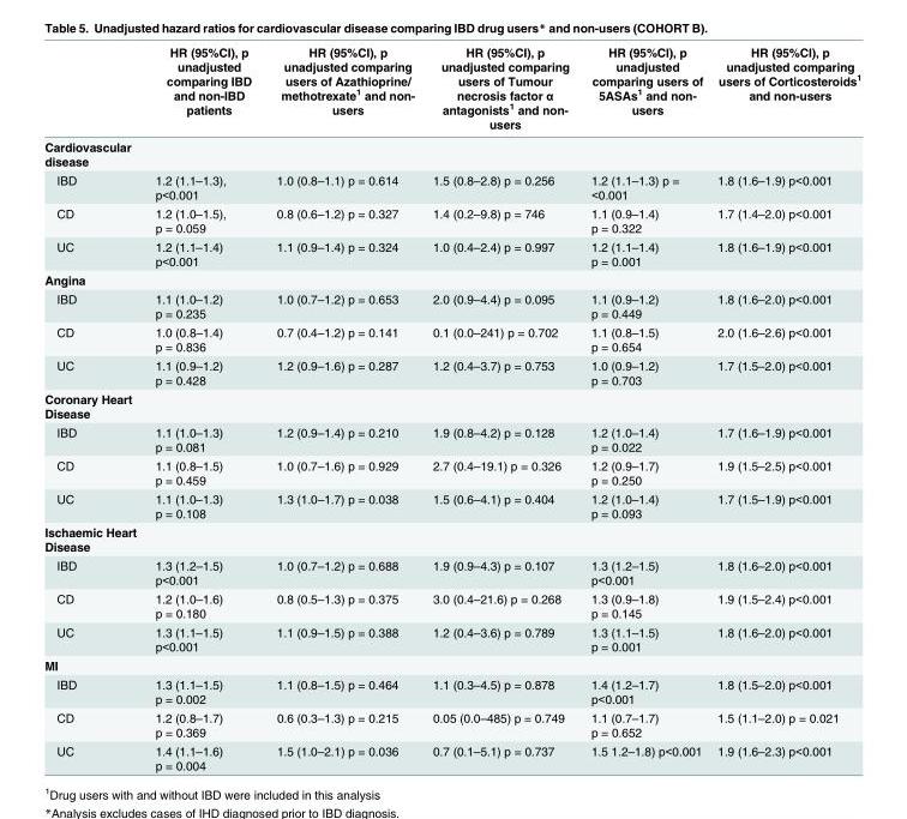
<table><thead><tr><td></td><td>HR (95%CI), p unadjusted comparing IBD and non-IBD patients</td><td>HR (95%CI), p unadjusted comparing users of Azathioprine/ methotrexate<sup>1</sup> and non- users</td><td>HR (95%CI), p unadjusted comparing users of Tumour necrosis factor α antagonists<sup>1</sup> and non- users</td><td>HR (95%CI), p unadjusted comparing users of 5ASAs<sup>1</sup> and non- users</td><td>HR (95%CI), p unadjusted comparing users of Corticosteroids<sup>1</sup> and non-users</td></tr></thead><tbody><tr><td colspan="6">Cardiovascular disease</td></tr><tr><td>IBD</td><td>1.2 (1.1–1.3), p&lt;0.001</td><td>1.0 (0.8–1.1) p = 0.614</td><td>1.5 (0.8–2.8) p = 0.256</td><td>1.2 (1.1–1.3) p = &lt;0.001</td><td>1.8 (1.6–1.9) p&lt;0.001</td></tr><tr><td>CD</td><td>1.2 (1.0–1.5), p = 0.059</td><td>0.8 (0.6–1.2) p = 0.327</td><td>1.4 (0.2–9.8) p = 746</td><td>1.1 (0.9–1.4) p = 0.322</td><td>1.7 (1.4–2.0) p&lt;0.001</td></tr><tr><td>UC</td><td>1.2 (1.1–1.4) p&lt;0.001</td><td>1.1 (0.9–1.4) p = 0.324</td><td>1.0 (0.4–2.4) p = 0.997</td><td>1.2 (1.1–1.4) p = 0.001</td><td>1.8 (1.6–1.9) p&lt;0.001</td></tr><tr><td colspan="6">Angina</td></tr><tr><td>IBD</td><td>1.1 (1.0–1.2) p = 0.235</td><td>1.0 (0.7–1.2) p = 0.653</td><td>2.0 (0.9–4.4) p = 0.095</td><td>1.1 (0.9–1.2) p = 0.449</td><td>1.8 (1.6–2.0) p&lt;0.001</td></tr><tr><td>CD</td><td>1.0 (0.8–1.4) p = 0.836</td><td>0.7 (0.4–1.2) p = 0.141</td><td>0.1 (0.0–241) p = 0.702</td><td>1.1 (0.8–1.5) p = 0.654</td><td>2.0 (1.6–2.6) p&lt;0.001</td></tr><tr><td>UC</td><td>1.1 (0.9–1.2) p = 0.428</td><td>1.2 (0.9–1.6) p = 0.287</td><td>1.2 (0.4–3.7) p = 0.753</td><td>1.0 (0.9–1.2) p = 0.703</td><td>1.7 (1.5–2.0) p&lt;0.001</td></tr><tr><td colspan="6">Coronary Heart Disease</td></tr><tr><td>IBD</td><td>1.1 (1.0–1.3) p = 0.081</td><td>1.2 (0.9–1.4) p = 0.210</td><td>1.9 (0.8–4.2) p = 0.128</td><td>1.2 (1.0–1.4) p = 0.022</td><td>1.7 (1.6–1.9) p&lt;0.001</td></tr><tr><td>CD</td><td>1.1 (0.8–1.5) p = 0.459</td><td>1.0 (0.7–1.6) p = 0.929</td><td>2.7 (0.4–19.1) p = 0.326</td><td>1.2 (0.9–1.7) p = 0.250</td><td>1.9 (1.5–2.5) p&lt;0.001</td></tr><tr><td>UC</td><td>1.1 (1.0–1.3) p = 0.108</td><td>1.3 (1.0–1.7) p = 0.038</td><td>1.5 (0.6–4.1) p = 0.404</td><td>1.2 (1.0–1.4) p = 0.093</td><td>1.7 (1.5–1.9) p&lt;0.001</td></tr><tr><td colspan="6">Ischaemic Heart Disease</td></tr><tr><td>IBD</td><td>1.3 (1.2–1.5) p&lt;0.001</td><td>1.0 (0.7–1.2) p = 0.688</td><td>1.9 (0.9–4.3) p = 0.107</td><td>1.3 (1.2–1.5) p&lt;0.001</td><td>1.8 (1.6–2.0) p&lt;0.001</td></tr><tr><td>CD</td><td>1.2 (1.0–1.6) p = 0.180</td><td>0.8 (0.5–1.3) p = 0.375</td><td>3.0 (0.4–21.6) p = 0.268</td><td>1.3 (0.9–1.8) p = 0.145</td><td>1.9 (1.5–2.4) p&lt;0.001</td></tr><tr><td>UC</td><td>1.3 (1.1–1.5) p&lt;0.001</td><td>1.1 (0.9–1.5) p = 0.388</td><td>1.2 (0.4–3.6) p = 0.789</td><td>1.3 (1.1–1.5) p = 0.001</td><td>1.8 (1.6–2.0) p&lt;0.001</td></tr><tr><td colspan="6">MI</td></tr><tr><td>IBD</td><td>1.3 (1.1–1.5) p = 0.002</td><td>1.1 (0.8–1.5) p = 0.464</td><td>1.1 (0.3–4.5) p = 0.878</td><td>1.4 (1.2–1.7) p&lt;0.001</td><td>1.8 (1.5–2.0) p&lt;0.001</td></tr><tr><td>CD</td><td>1.2 (0.8–1.7) p = 0.369</td><td>0.6 (0.3–1.3) p = 0.215</td><td>0.05 (0.0–485) p = 0.749</td><td>1.1 (0.7–1.7) p = 0.652</td><td>1.5 (1.1–2.0) p = 0.021</td></tr><tr><td>UC</td><td>1.4 (1.1–1.6) p = 0.004</td><td>1.5 (1.0–2.1) p = 0.036</td><td>0.7 (0.1–5.1) p = 0.737</td><td>1.5 1.2–1.8) p&lt;0.001</td><td>1.9 (1.6–2.3) p&lt;0.001</td></tr></tbody></table>